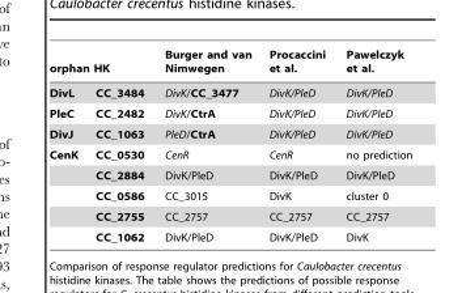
<table><thead><tr><td colspan="2">orphan HK</td><td rowspan="2">Burger and van Nimwegen DivK/CC_3477</td><td rowspan="2">Procaccini et al. DivK/PleD</td><td rowspan="2">Pawelczyk et al. DivK/PleD</td></tr><tr><td>DivL</td><td>CC_3484</td></tr></thead><tbody><tr><td>PleC</td><td>CC_2482</td><td>DivK/CtrA</td><td>DivK/PleD</td><td>DivK/PleD</td></tr><tr><td>DivJ</td><td>CC_1063</td><td>PleD/CtrA</td><td>DivK/PleD</td><td>DivK/PleD</td></tr><tr><td rowspan="5">CenK</td><td>CC_0530</td><td>CenR</td><td>CenR</td><td>no prediction</td></tr><tr><td>CC_2884</td><td>DivK/PleD</td><td>DivK/PleD</td><td>DivK/PleD</td></tr><tr><td>CC_0586</td><td>CC_3015</td><td>DivK</td><td>cluster 0</td></tr><tr><td>CC_2755</td><td>CC_2757</td><td>CC_2757</td><td>CC_2757</td></tr><tr><td>CC_1062</td><td>DivK/PleD</td><td>DivK/PleD</td><td>DivK</td></tr></tbody></table>